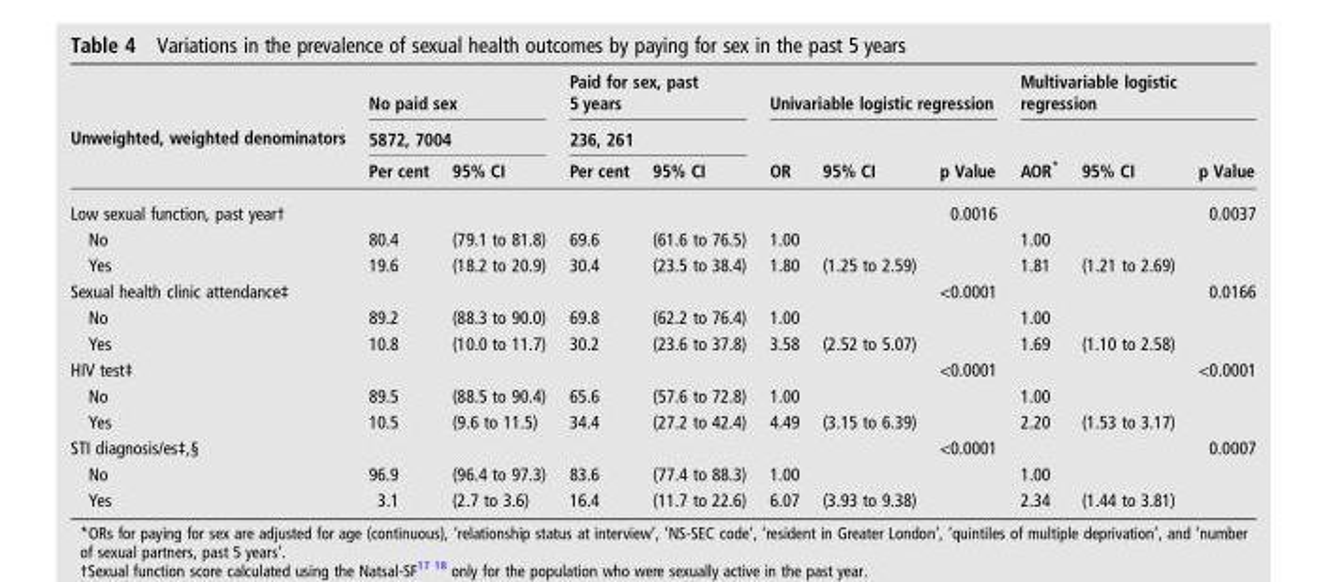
<table><thead><tr><td rowspan="3">Unweighted, weighted denominators</td><td rowspan="2" colspan="2">No paid sex 5872, 7004</td><td rowspan="2" colspan="2">Paid for sex, past 5 years 236, 261</td><td colspan="3">Univariable logistic regression</td><td colspan="3">Multivariable logistic regression</td></tr><tr><td rowspan="2">OR</td><td rowspan="2">95% CI</td><td rowspan="2">p Value</td><td rowspan="2">AOR*</td><td rowspan="2">95% CI</td><td rowspan="2">p Value</td></tr><tr><td>Per cent</td><td>95% CI</td><td>Per cent</td><td>95% CI</td></tr></thead><tbody><tr><td>Low sexual function, past year†</td><td></td><td></td><td></td><td></td><td></td><td></td><td>0.0016</td><td></td><td></td><td>0.0037</td></tr><tr><td>No</td><td>80.4</td><td>(79.1 to 81.8)</td><td>69.6</td><td>(61.6 to 76.5)</td><td>1.00</td><td></td><td></td><td>1.00</td><td></td><td></td></tr><tr><td>Yes</td><td>19.6</td><td>(18.2 to 20.9)</td><td>30.4</td><td>(23.5 to 38.4)</td><td>1.80</td><td>(1.25 to 2.59)</td><td></td><td>1.81</td><td>(1.21 to 2.69)</td><td></td></tr><tr><td>Sexual health clinic attendance‡</td><td></td><td></td><td></td><td></td><td></td><td></td><td>&lt;0.0001</td><td></td><td></td><td>0.0166</td></tr><tr><td>No</td><td>89.2</td><td>(88.3 to 90.0)</td><td>69.8</td><td>(62.2 to 76.4)</td><td>1.00</td><td></td><td></td><td>1.00</td><td></td><td></td></tr><tr><td>Yes</td><td>10.8</td><td>(10.0 to 11.7)</td><td>30.2</td><td>(23.6 to 37.8)</td><td>3.58</td><td>(2.52 to 5.07)</td><td></td><td>1.69</td><td>(1.10 to 2.58)</td><td></td></tr><tr><td>HIV test‡</td><td></td><td></td><td></td><td></td><td></td><td></td><td>&lt;0.0001</td><td></td><td></td><td>&lt;0.0001</td></tr><tr><td>No</td><td>89.5</td><td>(88.5 to 90.4)</td><td>65.6</td><td>(57.6 to 72.8)</td><td>1.00</td><td></td><td></td><td>1.00</td><td></td><td></td></tr><tr><td>Yes</td><td>10.5</td><td>(9.6 to 11.5)</td><td>34.4</td><td>(27.2 to 42.4)</td><td>4.49</td><td>(3.15 to 6.39)</td><td></td><td>2.20</td><td>(1.53 to 3.17)</td><td></td></tr><tr><td>STI diagnosis/es‡,§</td><td></td><td></td><td></td><td></td><td></td><td></td><td>&lt;0.0001</td><td></td><td></td><td>0.0007</td></tr><tr><td>No</td><td>96.9</td><td>(96.4 to 97.3)</td><td>83.6</td><td>(77.4 to 88.3)</td><td>1.00</td><td></td><td></td><td>1.00</td><td></td><td></td></tr><tr><td>Yes</td><td>3.1</td><td>(2.7 to 3.6)</td><td>16.4</td><td>(11.7 to 22.6)</td><td>6.07</td><td>(3.93 to 9.38)</td><td></td><td>2.34</td><td>(1.44 to 3.81)</td><td></td></tr></tbody></table>